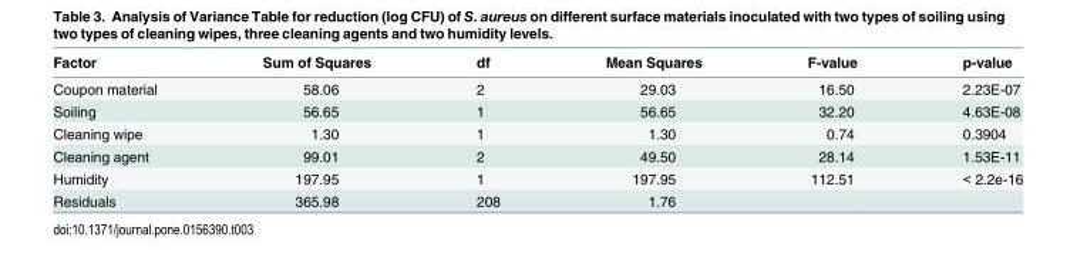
<table><thead><tr><td>Factor</td><td>Sum of Squares</td><td>df</td><td>Mean Squares</td><td>F-value</td><td>p-value</td></tr></thead><tbody><tr><td>Coupon material</td><td>58.06</td><td>2</td><td>29.03</td><td>16.50</td><td>2.23E-07</td></tr><tr><td>Soiling</td><td>56.65</td><td>1</td><td>56.65</td><td>32.20</td><td>4.63E-08</td></tr><tr><td>Cleaning wipe</td><td>1.30</td><td>1</td><td>1.30</td><td>0.74</td><td>0.3904</td></tr><tr><td>Cleaning agent</td><td>99.01</td><td>2</td><td>49.50</td><td>28.14</td><td>1.53E-11</td></tr><tr><td>Humidity</td><td>197.95</td><td>1</td><td>197.95</td><td>112.51</td><td>&lt; 2.2e-16</td></tr><tr><td>Residuals</td><td>365.98</td><td>208</td><td>1.76</td><td></td><td></td></tr></tbody></table>